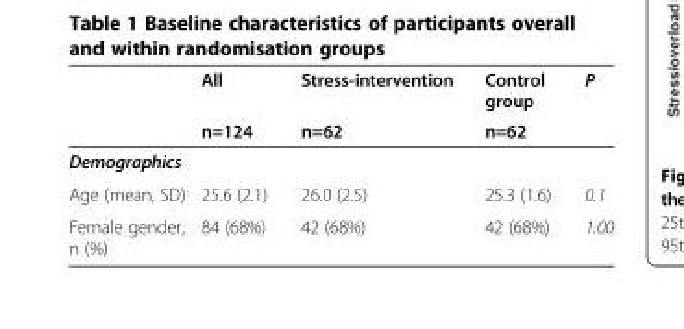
<table><thead><tr><td rowspan="2"></td><td rowspan="2">All n=124</td><td rowspan="2">Stress-intervention n=62</td><td rowspan="2">Control group n=62</td><td rowspan="2">P</td></tr><tr></tr></thead><tbody><tr><td colspan="5">Demographics</td></tr><tr><td>Age (mean, SD)</td><td>25.6 (2.1)</td><td>26.0 (2.5)</td><td>25.3 (1.6)</td><td>0.1</td></tr><tr><td>Female gender, n (%)</td><td>84 (68%)</td><td>42 (68%)</td><td>42 (68%)</td><td>1.00</td></tr></tbody></table>